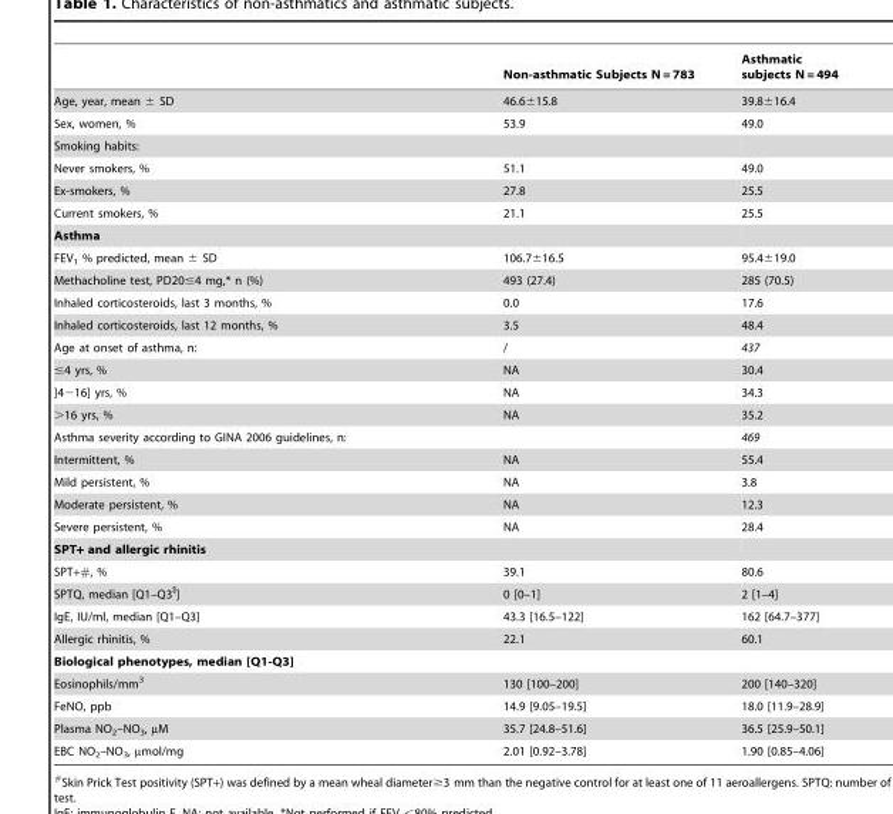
<table><thead><tr><td></td><td>Non-asthmatic Subjects N = 783</td><td>Asthmatic subjects N = 494</td></tr></thead><tbody><tr><td>Age, year, mean ± SD</td><td>46.6±15.8</td><td>39.8±16.4</td></tr><tr><td>Sex, women, %</td><td>53.9</td><td>49.0</td></tr><tr><td colspan="3">Smoking habits:</td></tr><tr><td>Never smokers, %</td><td>51.1</td><td>49.0</td></tr><tr><td>Ex-smokers, %</td><td>27.8</td><td>25.5</td></tr><tr><td>Current smokers, %</td><td>21.1</td><td>25.5</td></tr><tr><td colspan="3">Asthma</td></tr><tr><td>FEV<sub>1</sub> % predicted, mean ± SD</td><td>106.7±16.5</td><td>95.4±19.0</td></tr><tr><td>Methacholine test, PD20≤4 mg,* n (%)</td><td>493 (27.4)</td><td>285 (70.5)</td></tr><tr><td>Inhaled corticosteroids, last 3 months, %</td><td>0.0</td><td>17.6</td></tr><tr><td>Inhaled corticosteroids, last 12 months, %</td><td>3.5</td><td>48.4</td></tr><tr><td>Age at onset of asthma, n:</td><td>/</td><td>437</td></tr><tr><td>≤4 yrs, %</td><td>NA</td><td>30.4</td></tr><tr><td>]4−16] yrs, %</td><td>NA</td><td>34.3</td></tr><tr><td>&gt;16 yrs, %</td><td>NA</td><td>35.2</td></tr><tr><td>Asthma severity according to GINA 2006 guidelines, n:</td><td></td><td>469</td></tr><tr><td>Intermittent, %</td><td>NA</td><td>55.4</td></tr><tr><td>Mild persistent, %</td><td>NA</td><td>3.8</td></tr><tr><td>Moderate persistent, %</td><td>NA</td><td>12.3</td></tr><tr><td>Severe persistent, %</td><td>NA</td><td>28.4</td></tr><tr><td colspan="3">SPT+ and allergic rhinitis</td></tr><tr><td>SPT+#, %</td><td>39.1</td><td>80.6</td></tr><tr><td>SPTQ, median [Q1–Q3$]</td><td>0 [0–1]</td><td>2 [1–4]</td></tr><tr><td>IgE, IU/ml, median [Q1–Q3]</td><td>43.3 [16.5–122]</td><td>162 [64.7–377]</td></tr><tr><td>Allergic rhinitis, %</td><td>22.1</td><td>60.1</td></tr><tr><td colspan="3">Biological phenotypes, median [Q1-Q3]</td></tr><tr><td>Eosinophils/mm<sup>3</sup></td><td>130 [100–200]</td><td>200 [140–320]</td></tr><tr><td>FeNO, ppb</td><td>14.9 [9.05–19.5]</td><td>18.0 [11.9–28.9]</td></tr><tr><td>Plasma NO<sub>2</sub>–NO<sub>3</sub>, µM</td><td>35.7 [24.8–51.6]</td><td>36.5 [25.9–50.1]</td></tr><tr><td>EBC NO<sub>2</sub>–NO<sub>3</sub>, µmol/mg</td><td>2.01 [0.92–3.78]</td><td>1.90 [0.85–4.06]</td></tr></tbody></table>